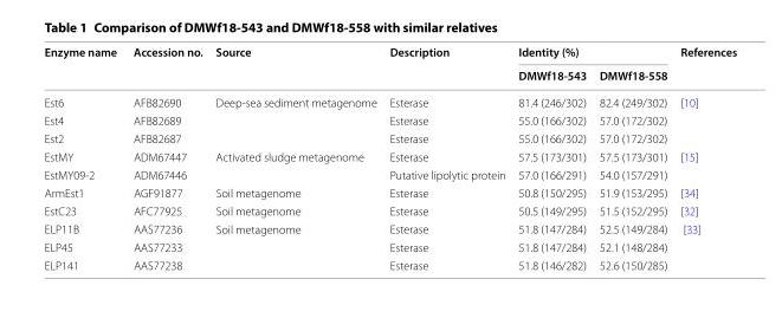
<table><thead><tr><td rowspan="2">Enzyme name</td><td rowspan="2">Accession no.</td><td rowspan="2">Source</td><td rowspan="2">Description</td><td colspan="2">Identity (%)</td><td rowspan="2">References</td></tr><tr><td>DMWf18-543</td><td>DMWf18-558</td></tr></thead><tbody><tr><td>Est6</td><td>AFB82690</td><td rowspan="3">Deep‑sea sediment metagenome</td><td>Esterase</td><td>81.4 (246/302)</td><td>82.4 (249/302)</td><td rowspan="3">[10]</td></tr><tr><td>Est4</td><td>AFB82689</td><td>Esterase</td><td>55.0 (166/302)</td><td>57.0 (172/302)</td></tr><tr><td>Est2</td><td>AFB82687</td><td>Esterase</td><td>55.0 (166/302)</td><td>57.0 (172/302)</td></tr><tr><td>EstMY</td><td>ADM67447</td><td rowspan="2">Activated sludge metagenome</td><td>Esterase</td><td>57.5 (173/301)</td><td>57.5 (173/301)</td><td rowspan="2">[15]</td></tr><tr><td>EstMY09‑2</td><td>ADM67446</td><td>Putative lipolytic protein</td><td>57.0 (166/291)</td><td>54.0 (157/291)</td></tr><tr><td>ArmEst1</td><td>AGF91877</td><td>Soil metagenome</td><td>Esterase</td><td>50.8 (150/295)</td><td>51.9 (153/295)</td><td>[34]</td></tr><tr><td>EstC23</td><td>AFC77925</td><td>Soil metagenome</td><td>Esterase</td><td>50.5 (149/295)</td><td>51.5 (152/295)</td><td>[32]</td></tr><tr><td>ELP11B</td><td>AAS77236</td><td rowspan="3">Soil metagenome</td><td>Esterase</td><td>51.8 (147/284)</td><td>52.5 (149/284)</td><td rowspan="3">[33]</td></tr><tr><td>ELP45</td><td>AAS77233</td><td>Esterase</td><td>51.8 (147/284)</td><td>52.1 (148/284)</td></tr><tr><td>ELP141</td><td>AAS77238</td><td>Esterase</td><td>51.8 (146/282)</td><td>52.6 (150/285)</td></tr></tbody></table>